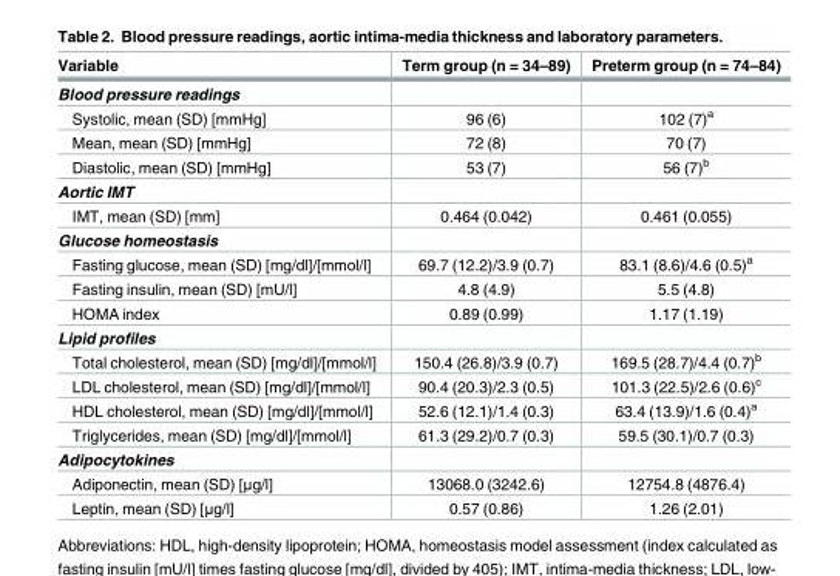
<table><thead><tr><td>Variable</td><td>Term group (n = 34–89)</td><td>Preterm group (n = 74–84)</td></tr></thead><tbody><tr><td colspan="3">Blood pressure readings</td></tr><tr><td>Systolic, mean (SD) [mmHg]</td><td>96 (6)</td><td>102 (7)<sup>a</sup></td></tr><tr><td>Mean, mean (SD) [mmHg]</td><td>72 (8)</td><td>70 (7)</td></tr><tr><td>Diastolic, mean (SD) [mmHg]</td><td>53 (7)</td><td>56 (7)<sup>b</sup></td></tr><tr><td colspan="3">Aortic IMT</td></tr><tr><td>IMT, mean (SD) [mm]</td><td>0.464 (0.042)</td><td>0.461 (0.055)</td></tr><tr><td colspan="3">Glucose homeostasis</td></tr><tr><td>Fasting glucose, mean (SD) [mg/dl]/[mmol/l]</td><td>69.7 (12.2)/3.9 (0.7)</td><td>83.1 (8.6)/4.6 (0.5)<sup>a</sup></td></tr><tr><td>Fasting insulin, mean (SD) [mU/l]</td><td>4.8 (4.9)</td><td>5.5 (4.8)</td></tr><tr><td>HOMA index</td><td>0.89 (0.99)</td><td>1.17 (1.19)</td></tr><tr><td colspan="3">Lipid profiles</td></tr><tr><td>Total cholesterol, mean (SD) [mg/dl]/[mmol/l]</td><td>150.4 (26.8)/3.9 (0.7)</td><td>169.5 (28.7)/4.4 (0.7)<sup>b</sup></td></tr><tr><td>LDL cholesterol, mean (SD) [mg/dl]/[mmol/l]</td><td>90.4 (20.3)/2.3 (0.5)</td><td>101.3 (22.5)/2.6 (0.6)<sup>c</sup></td></tr><tr><td>HDL cholesterol, mean (SD) [mg/dl]/[mmol/l]</td><td>52.6 (12.1)/1.4 (0.3)</td><td>63.4 (13.9)/1.6 (0.4)<sup>a</sup></td></tr><tr><td>Triglycerides, mean (SD) [mg/dl]/[mmol/l]</td><td>61.3 (29.2)/0.7 (0.3)</td><td>59.5 (30.1)/0.7 (0.3)</td></tr><tr><td colspan="3">Adipocytokines</td></tr><tr><td>Adiponectin, mean (SD) [μg/l]</td><td>13068.0 (3242.6)</td><td>12754.8 (4876.4)</td></tr><tr><td>Leptin, mean (SD) [μg/l]</td><td>0.57 (0.86)</td><td>1.26 (2.01)</td></tr></tbody></table>